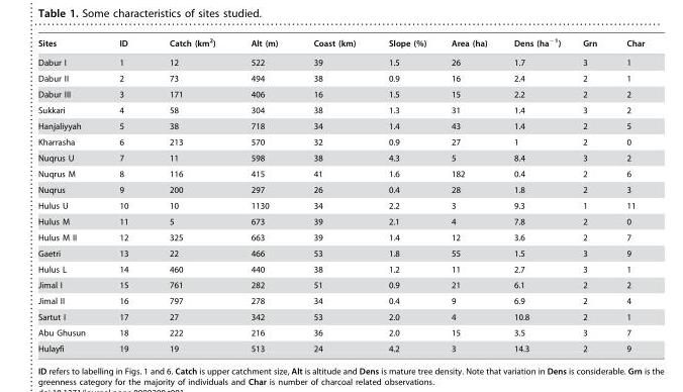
<table><thead><tr><td>Sites</td><td>ID</td><td>Catch (km<sup>2</sup>)</td><td>Alt (m)</td><td>Coast (km)</td><td>Slope (%)</td><td>Area (ha)</td><td>Dens (ha<sup>−1</sup>)</td><td>Grn</td><td>Char</td></tr></thead><tbody><tr><td>Dabur I</td><td>1</td><td>12</td><td>522</td><td>39</td><td>1.5</td><td>26</td><td>1.7</td><td>3</td><td>1</td></tr><tr><td>Dabur II</td><td>2</td><td>73</td><td>494</td><td>38</td><td>0.9</td><td>16</td><td>2.4</td><td>2</td><td>1</td></tr><tr><td>Dabur III</td><td>3</td><td>171</td><td>406</td><td>16</td><td>1.5</td><td>15</td><td>2.2</td><td>2</td><td>2</td></tr><tr><td>Sukkari</td><td>4</td><td>58</td><td>304</td><td>38</td><td>1.3</td><td>31</td><td>1.4</td><td>3</td><td>2</td></tr><tr><td>Hanjaliyyah</td><td>5</td><td>38</td><td>718</td><td>34</td><td>1.4</td><td>43</td><td>1.4</td><td>2</td><td>5</td></tr><tr><td>Kharrasha</td><td>6</td><td>213</td><td>570</td><td>32</td><td>0.9</td><td>27</td><td>1</td><td>2</td><td>0</td></tr><tr><td>Nuqrus U</td><td>7</td><td>11</td><td>598</td><td>38</td><td>4.3</td><td>5</td><td>8.4</td><td>3</td><td>2</td></tr><tr><td>Nuqrus M</td><td>8</td><td>116</td><td>415</td><td>41</td><td>1.6</td><td>182</td><td>0.4</td><td>2</td><td>6</td></tr><tr><td>Nuqrus</td><td>9</td><td>200</td><td>297</td><td>26</td><td>0.4</td><td>28</td><td>1.8</td><td>2</td><td>3</td></tr><tr><td>Hulus U</td><td>10</td><td>10</td><td>1130</td><td>34</td><td>2.2</td><td>3</td><td>9.3</td><td>1</td><td>11</td></tr><tr><td>Hulus M</td><td>11</td><td>5</td><td>673</td><td>39</td><td>2.1</td><td>4</td><td>7.8</td><td>2</td><td>0</td></tr><tr><td>Hulus M II</td><td>12</td><td>325</td><td>663</td><td>39</td><td>1.4</td><td>12</td><td>3.6</td><td>2</td><td>7</td></tr><tr><td>Gaetri</td><td>13</td><td>22</td><td>466</td><td>53</td><td>1.8</td><td>55</td><td>1.5</td><td>3</td><td>9</td></tr><tr><td>Hulus L</td><td>14</td><td>460</td><td>440</td><td>38</td><td>1.2</td><td>11</td><td>2.7</td><td>3</td><td>1</td></tr><tr><td>Jimal I</td><td>15</td><td>761</td><td>282</td><td>51</td><td>0.9</td><td>21</td><td>6.1</td><td>2</td><td>2</td></tr><tr><td>Jimal II</td><td>16</td><td>797</td><td>278</td><td>34</td><td>0.4</td><td>9</td><td>6.9</td><td>2</td><td>4</td></tr><tr><td>Sartut I</td><td>17</td><td>27</td><td>342</td><td>53</td><td>2.0</td><td>4</td><td>10.8</td><td>2</td><td>1</td></tr><tr><td>Abu Ghusun</td><td>18</td><td>222</td><td>216</td><td>36</td><td>2.0</td><td>15</td><td>3.5</td><td>3</td><td>7</td></tr><tr><td>Hulayfi</td><td>19</td><td>19</td><td>513</td><td>24</td><td>4.2</td><td>3</td><td>14.3</td><td>2</td><td>9</td></tr></tbody></table>